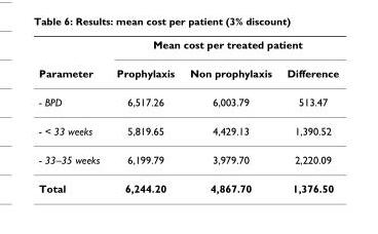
<table><thead><tr><td rowspan="2">Parameter</td><td colspan="3">Mean cost per treated patient</td></tr><tr><td>Prophylaxis</td><td>Non prophylaxis</td><td>Difference</td></tr></thead><tbody><tr><td>- BPD</td><td>6,517.26</td><td>6,003.79</td><td>513.47</td></tr><tr><td>- &lt; 33 weeks</td><td>5,819.65</td><td>4,429.13</td><td>1,390.52</td></tr><tr><td>- 33–35 weeks</td><td>6,199.79</td><td>3,979.70</td><td>2,220.09</td></tr><tr><td>Total</td><td>6,244.20</td><td>4,867.70</td><td>1,376.50</td></tr></tbody></table>